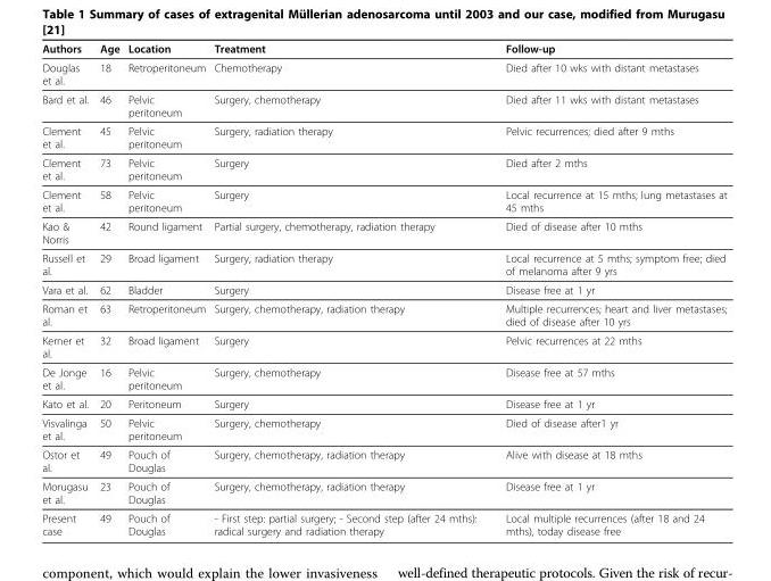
<table><thead><tr><td>Authors</td><td>Age</td><td>Location</td><td>Treatment</td><td>Follow-up</td></tr></thead><tbody><tr><td>Douglas et al.</td><td>18</td><td>Retroperitoneum</td><td>Chemotherapy</td><td>Died after 10 wks with distant metastases</td></tr><tr><td>Bard et al.</td><td>46</td><td>Pelvic peritoneum</td><td>Surgery, chemotherapy</td><td>Died after 11 wks with distant metastases</td></tr><tr><td>Clement et al.</td><td>45</td><td>Pelvic peritoneum</td><td>Surgery, radiation therapy</td><td>Pelvic recurrences; died after 9 mths</td></tr><tr><td>Clement et al.</td><td>73</td><td>Pelvic peritoneum</td><td>Surgery</td><td>Died after 2 mths</td></tr><tr><td>Clement et al.</td><td>58</td><td>Pelvic peritoneum</td><td>Surgery</td><td>Local recurrence at 15 mths; lung metastases at 45 mths</td></tr><tr><td>Kao &amp; Norris</td><td>42</td><td>Round ligament</td><td>Partial surgery, chemotherapy, radiation therapy</td><td>Died of disease after 10 mths</td></tr><tr><td>Russell et al.</td><td>29</td><td>Broad ligament</td><td>Surgery, radiation therapy</td><td>Local recurrence at 5 mths; symptom free; died of melanoma after 9 yrs</td></tr><tr><td>Vara et al.</td><td>62</td><td>Bladder</td><td>Surgery</td><td>Disease free at 1 yr</td></tr><tr><td>Roman et al.</td><td>63</td><td>Retroperitoneum</td><td>Surgery, chemotherapy, radiation therapy</td><td>Multiple recurrences; heart and liver metastases; died of disease after 10 yrs</td></tr><tr><td>Kerner et al.</td><td>32</td><td>Broad ligament</td><td>Surgery</td><td>Pelvic recurrences at 22 mths</td></tr><tr><td>De Jonge et al.</td><td>16</td><td>Pelvic peritoneum</td><td>Surgery, chemotherapy</td><td>Disease free at 57 mths</td></tr><tr><td>Kato et al.</td><td>20</td><td>Peritoneum</td><td>Surgery</td><td>Disease free at 1 yr</td></tr><tr><td>Visvalinga et al.</td><td>50</td><td>Pelvic peritoneum</td><td>Surgery, chemotherapy</td><td>Died of disease after1 yr</td></tr><tr><td>Ostor et al.</td><td>49</td><td>Pouch of Douglas</td><td>Surgery, chemotherapy, radiation therapy</td><td>Alive with disease at 18 mths</td></tr><tr><td>Morugasu et al.</td><td>23</td><td>Pouch of Douglas</td><td>Surgery, chemotherapy, radiation therapy</td><td>Disease free at 1 yr</td></tr><tr><td>Present case</td><td>49</td><td>Pouch of Douglas</td><td>- First step: partial surgery; - Second step (after 24 mths): radical surgery and radiation therapy</td><td>Local multiple recurrences (after 18 and 24 mths), today disease free</td></tr></tbody></table>